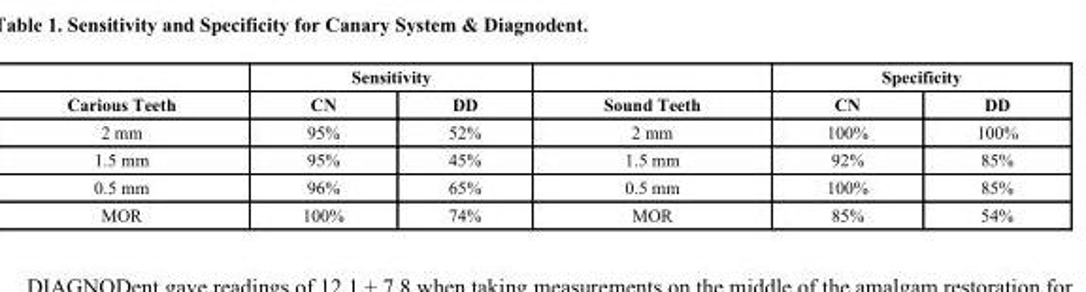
<table><thead><tr><td rowspan="2">Carious Teeth</td><td colspan="2">Sensitivity</td><td rowspan="2">Sound Teeth</td><td colspan="2">Specificity</td></tr><tr><td>CN</td><td>DD</td><td>CN</td><td>DD</td></tr></thead><tbody><tr><td>2 mm</td><td>95%</td><td>52%</td><td>2 mm</td><td>100%</td><td>100%</td></tr><tr><td>1.5 mm</td><td>95%</td><td>45%</td><td>1.5 mm</td><td>92%</td><td>85%</td></tr><tr><td>0.5 mm</td><td>96%</td><td>65%</td><td>0.5 mm</td><td>100%</td><td>85%</td></tr><tr><td>MOR</td><td>100%</td><td>74%</td><td>MOR</td><td>85%</td><td>54%</td></tr></tbody></table>